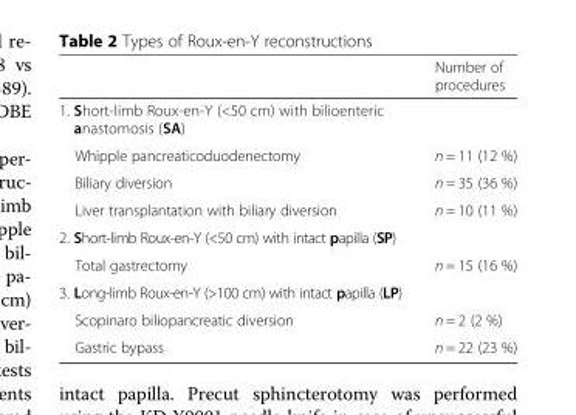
<table><thead><tr><td></td><td>Number of procedures</td></tr></thead><tbody><tr><td colspan="2">1. Short-limb Roux-en-Y (&lt;50 cm) with bilioenteric anastomosis (SA)</td></tr><tr><td>Whipple pancreaticoduodenectomy</td><td>n = 11 (12 %)</td></tr><tr><td>Biliary diversion</td><td>n = 35 (36 %)</td></tr><tr><td>Liver transplantation with biliary diversion</td><td>n = 10 (11 %)</td></tr><tr><td colspan="2">2. Short-limb Roux-en-Y (&lt;50 cm) with intact papilla (SP)</td></tr><tr><td>Total gastrectomy</td><td>n = 15 (16 %)</td></tr><tr><td colspan="2">3. Long-limb Roux-en-Y (&gt;100 cm) with intact papilla (LP)</td></tr><tr><td>Scopinaro biliopancreatic diversion</td><td>n = 2 (2 %)</td></tr><tr><td>Gastric bypass</td><td>n = 22 (23 %)</td></tr></tbody></table>